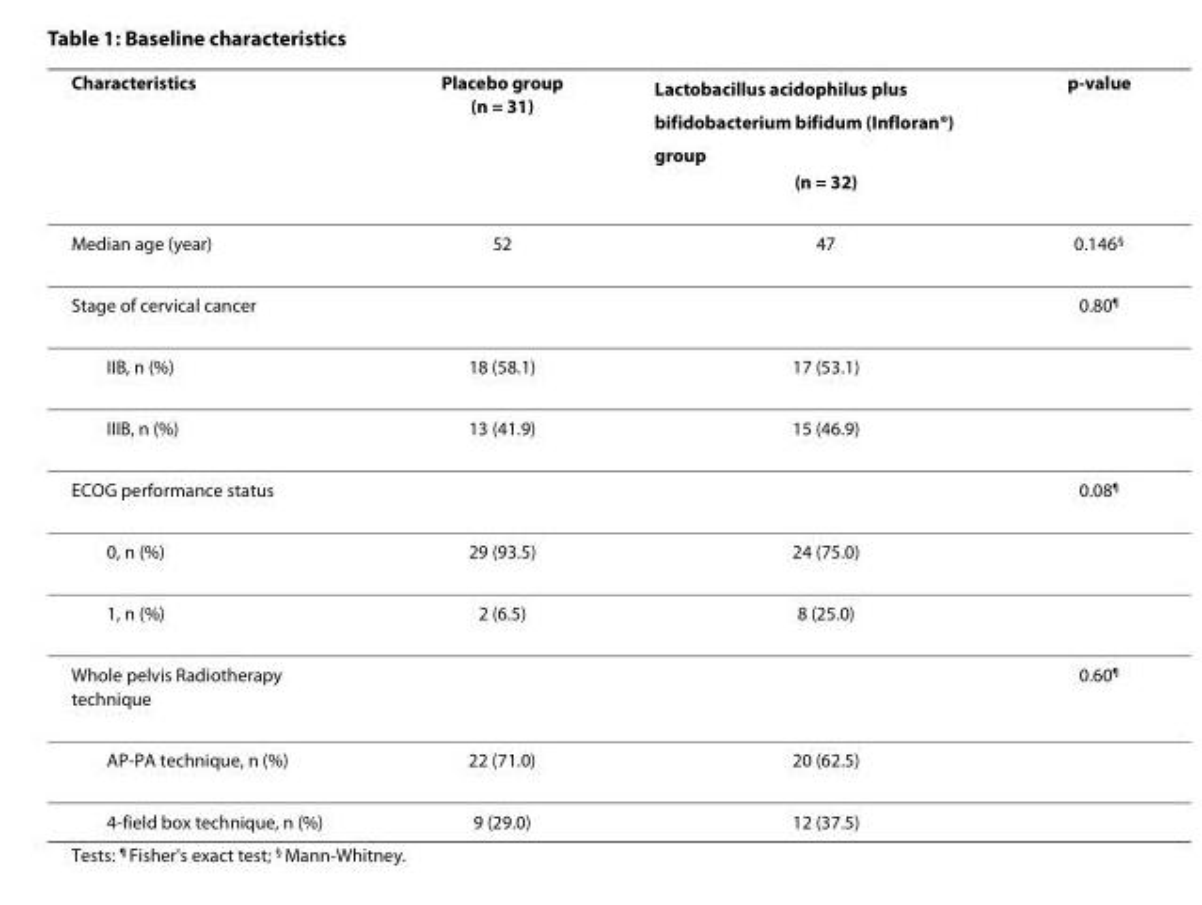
<table><thead><tr><td>Characteristics</td><td>Placebo group (n = 31)</td><td>Lactobacillus acidophilus plus bifidobacterium bifidum (Infloran<sup>®</sup>) group (n = 32)</td><td>p-value</td></tr></thead><tbody><tr><td>Median age (year)</td><td>52</td><td>47</td><td>0.146<sup>§</sup></td></tr><tr><td>Stage of cervical cancer</td><td></td><td></td><td>0.80<sup>¶</sup></td></tr><tr><td>IIB, n (%)</td><td>18 (58.1)</td><td>17 (53.1)</td><td></td></tr><tr><td>IIIB, n (%)</td><td>13 (41.9)</td><td>15 (46.9)</td><td></td></tr><tr><td>ECOG performance status</td><td></td><td></td><td>0.08<sup>¶</sup></td></tr><tr><td>0, n (%)</td><td>29 (93.5)</td><td>24 (75.0)</td><td></td></tr><tr><td>1, n (%)</td><td>2 (6.5)</td><td>8 (25.0)</td><td></td></tr><tr><td>Whole pelvis Radiotherapy technique</td><td></td><td></td><td>0.60<sup>¶</sup></td></tr><tr><td>AP-PA technique, n (%)</td><td>22 (71.0)</td><td>20 (62.5)</td><td></td></tr><tr><td>4-field box technique, n (%)</td><td>9 (29.0)</td><td>12 (37.5)</td><td></td></tr></tbody></table>